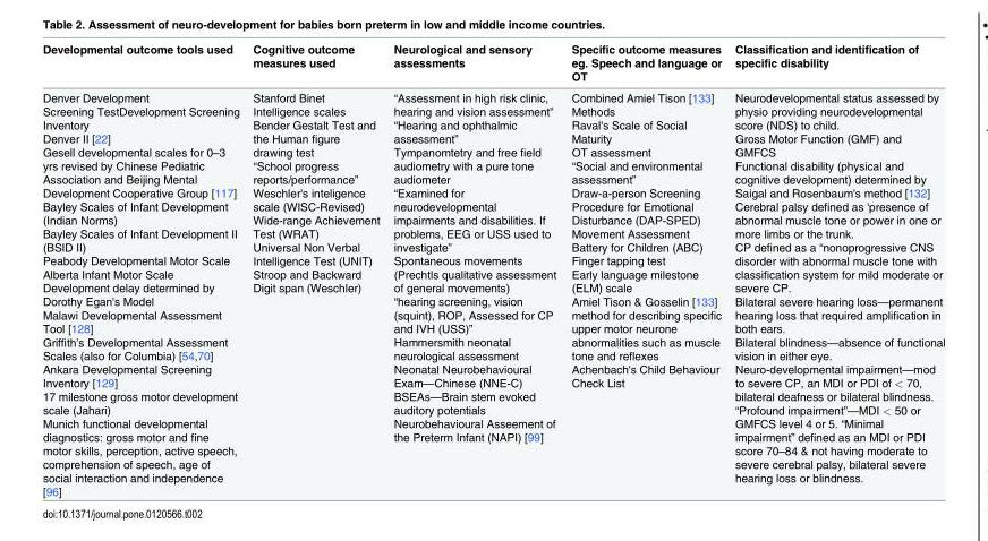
<table><thead><tr><td>Developmental outcome tools used</td><td>Cognitive outcome measures used</td><td>Neurological and sensory assessments</td><td>Specific outcome measures eg. Speech and language or OT</td><td>Classification and identification of specific disability</td></tr></thead><tbody><tr><td>Denver Development Screening TestDevelopment Screening Inventory Denver II [22] Gesell developmental scales for 0–3 yrs revised by Chinese Pediatric Association and Beijing Mental Development Cooperative Group [117] Bayley Scales of Infant Development (Indian Norms) Bayley Scales of Infant Development II (BSID II) Peabody Developmental Motor Scale Alberta Infant Motor Scale Development delay determined by Dorothy Egan&#x27;s Model Malawi Developmental Assessment Tool [128] Griffith’s Developmental Assessment Scales (also for Columbia) [54,70] Ankara Developmental Screening Inventory [129] 17 milestone gross motor development scale (Jahari) Munich functional developmental diagnostics: gross motor and fine motor skills, perception, active speech, comprehension of speech, age of social interaction and independence [96]</td><td>Stanford Binet Intelligence scales Bender Gestalt Test and the Human figure drawing test “School progress reports/performance” Weschler&#x27;s inteligence scale (WISC-Revised) Wide-range Achievement Test (WRAT) Universal Non Verbal Intelligence Test (UNIT) Stroop and Backward Digit span (Weschler)</td><td>“Assessment in high risk clinic, hearing and vision assessment” “Hearing and ophthalmic assessment” Tympanomtetry and free field audiometry with a pure tone audiometer “Examined for neurodevelopmental impairments and disabilities. If problems, EEG or USS used to investigate” Spontaneous movements (Prechtls qualitative assessment of general movements) “hearing screening, vision (squint), ROP, Assessed for CP and IVH (USS)” Hammersmith neonatal neurological assessment Neonatal Neurobehavioural Exam—Chinese (NNE-C) BSEAs—Brain stem evoked auditory potentials Neurobehavioural Asseement of the Preterm Infant (NAPI) [99]</td><td>Combined Amiel Tison [133] Methods Raval&#x27;s Scale of Social Maturity OT assessment “Social and environmental assessment” Draw-a-person Screening Procedure for Emotional Disturbance (DAP-SPED) Movement Assessment Battery for Children (ABC) Finger tapping test Early language milestone (ELM) scale Amiel Tison &amp; Gosselin [133] method for describing specific upper motor neurone abnormalities such as muscle tone and reflexes Achenbach&#x27;s Child Behaviour Check List</td><td>Neurodevelopmental status assessed by physio providing neurodevelopmental score (NDS) to child. Gross Motor Function (GMF) and GMFCS Functional disability (physical and cognitive development) determined by Saigal and Rosenbaum&#x27;s method [132] Cerebral palsy defined as &#x27;presence of abnormal muscle tone or power in one or more limbs or the trunk. CP defined as a “nonoprogressive CNS disorder with abnormal muscle tone with classification system for mild moderate or severe CP. Bilateral severe hearing loss—permanent hearing loss that required amplification in both ears. Bilateral blindness—absence of functional vision in either eye. Neuro-developmental impairment—mod to severe CP, an MDI or PDI of &lt; 70, bilateral deafness or bilateral blindness. “Profound impairment”—MDI &lt; 50 or GMFCS level 4 or 5. “Minimal impairment” defined as an MDI or PDI score 70–84 &amp; not having moderate to severe cerebral palsy, bilateral severe hearing loss or blindness.</td></tr></tbody></table>